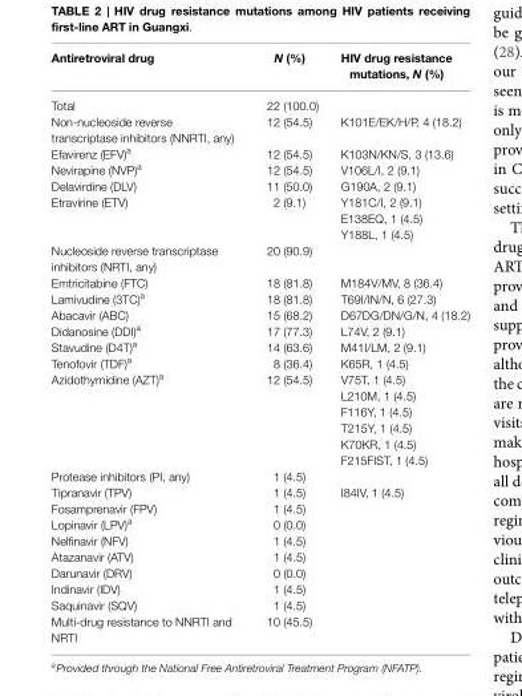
<table><thead><tr><td>Antiretroviral drug</td><td>N (%)</td><td>HIV drug resistance mutations, N (%)</td></tr></thead><tbody><tr><td>Total</td><td>22 (100.0)</td><td></td></tr><tr><td>Non-nucleoside reverse transcriptase inhibitors (NNRTI, any)</td><td>12 (54.5)</td><td>K101E/EK/H/P, 4 (18.2)</td></tr><tr><td>Efavirenz (EFV)<sup>a</sup></td><td>12 (54.5)</td><td>K103N/KN/S, 3 (13.6)</td></tr><tr><td>Nevirapine (NVP)<sup>a</sup></td><td>12 (54.5)</td><td>V106L/I, 2 (9.1)</td></tr><tr><td>Delavirdine (DLV)</td><td>11 (50.0)</td><td>G190A, 2 (9.1)</td></tr><tr><td rowspan="3">Etravirine (ETV)</td><td>2 (9.1)</td><td>Y181C/I, 2 (9.1)</td></tr><tr><td></td><td>E138EQ, 1 (4.5)</td></tr><tr><td></td><td>Y188L, 1 (4.5)</td></tr><tr><td>Nucleoside reverse transcriptase inhibitors (NRTI, any)</td><td>20 (90.9)</td><td></td></tr><tr><td>Emtricitabine (FTC)</td><td>18 (81.8)</td><td>M184V/MV, 8 (36.4)</td></tr><tr><td>Lamivudine (3TC)<sup>a</sup></td><td>18 (81.8)</td><td>T69I/IN/N, 6 (27.3)</td></tr><tr><td>Abacavir (ABC)</td><td>15 (68.2)</td><td>D67DG/DN/G/N, 4 (18.2)</td></tr><tr><td>Didanosine (DDI)<sup>a</sup></td><td>17 (77.3)</td><td>L74V, 2 (9.1)</td></tr><tr><td>Stavudine (D4T)<sup>a</sup></td><td>14 (63.6)</td><td>M41I/LM, 2 (9.1)</td></tr><tr><td>Tenofovir (TDF)<sup>a</sup></td><td>8 (36.4)</td><td>K65R, 1 (4.5)</td></tr><tr><td rowspan="6">Azidothymidine (AZT)<sup>a</sup></td><td>12 (54.5)</td><td>V75T, 1 (4.5)</td></tr><tr><td></td><td>L210M, 1 (4.5)</td></tr><tr><td></td><td>F116Y, 1 (4.5)</td></tr><tr><td></td><td>T215Y, 1 (4.5)</td></tr><tr><td></td><td>K70KR, 1 (4.5)</td></tr><tr><td></td><td>F215FIST, 1 (4.5)</td></tr><tr><td>Protease inhibitors (PI, any)</td><td>1 (4.5)</td><td></td></tr><tr><td>Tipranavir (TPV)</td><td>1 (4.5)</td><td>I84IV, 1 (4.5)</td></tr><tr><td>Fosamprenavir (FPV)</td><td>1 (4.5)</td><td></td></tr><tr><td>Lopinavir (LPV)<sup>a</sup></td><td>0 (0.0)</td><td></td></tr><tr><td>Nelfinavir (NFV)</td><td>1 (4.5)</td><td></td></tr><tr><td>Atazanavir (ATV)</td><td>1 (4.5)</td><td></td></tr><tr><td>Darunavir (DRV)</td><td>0 (0.0)</td><td></td></tr><tr><td>Indinavir (IDV)</td><td>1 (4.5)</td><td></td></tr><tr><td>Saquinavir (SQV)</td><td>1 (4.5)</td><td></td></tr><tr><td>Multi-drug resistance to NNRTI and NRTI</td><td>10 (45.5)</td><td></td></tr></tbody></table>